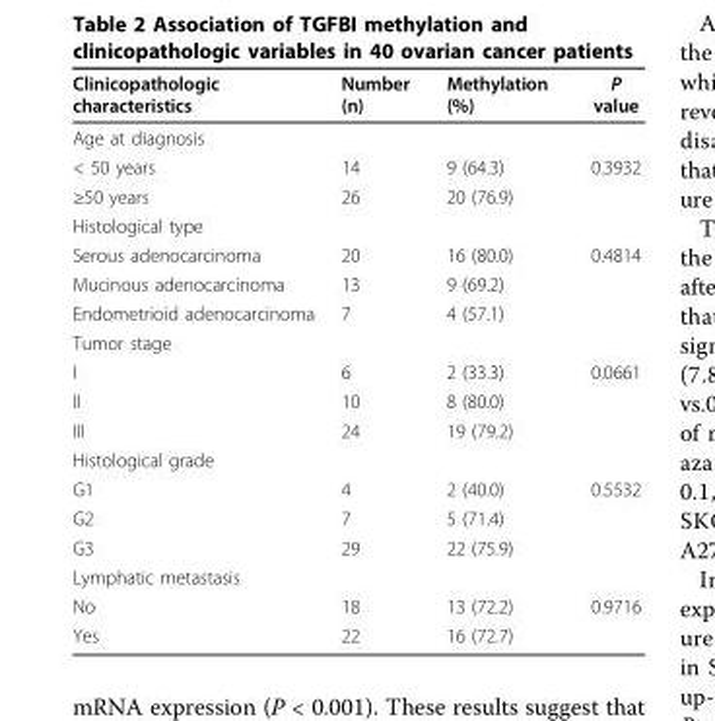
<table><thead><tr><td>Clinicopathologic characteristics</td><td>Number (n)</td><td>Methylation (%)</td><td>P value</td></tr></thead><tbody><tr><td colspan="4">Age at diagnosis</td></tr><tr><td>&lt; 50 years</td><td>14</td><td>9 (64.3)</td><td>0.3932</td></tr><tr><td>≥50 years</td><td>26</td><td>20 (76.9)</td><td></td></tr><tr><td colspan="4">Histological type</td></tr><tr><td>Serous adenocarcinoma</td><td>20</td><td>16 (80.0)</td><td>0.4814</td></tr><tr><td>Mucinous adenocarcinoma</td><td>13</td><td>9 (69.2)</td><td></td></tr><tr><td>Endometrioid adenocarcinoma</td><td>7</td><td>4 (57.1)</td><td></td></tr><tr><td colspan="4">Tumor stage</td></tr><tr><td>I</td><td>6</td><td>2 (33.3)</td><td>0.0661</td></tr><tr><td>II</td><td>10</td><td>8 (80.0)</td><td></td></tr><tr><td>III</td><td>24</td><td>19 (79.2)</td><td></td></tr><tr><td colspan="4">Histological grade</td></tr><tr><td>G1</td><td>4</td><td>2 (40.0)</td><td>0.5532</td></tr><tr><td>G2</td><td>7</td><td>5 (71.4)</td><td></td></tr><tr><td>G3</td><td>29</td><td>22 (75.9)</td><td></td></tr><tr><td colspan="4">Lymphatic metastasis</td></tr><tr><td>No</td><td>18</td><td>13 (72.2)</td><td>0.9716</td></tr><tr><td>Yes</td><td>22</td><td>16 (72.7)</td><td></td></tr></tbody></table>